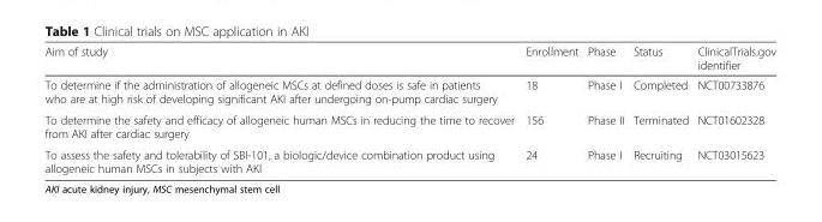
<table><thead><tr><td>Aim of study</td><td>Enrollment</td><td>Phase</td><td>Status</td><td>ClinicalTrials.gov identifier</td></tr></thead><tbody><tr><td>To determine if the administration of allogeneic MSCs at defined doses is safe in patients who are at high risk of developing significant AKI after undergoing on-pump cardiac surgery</td><td>18</td><td>Phase I</td><td>Completed</td><td>NCT00733876</td></tr><tr><td>To determine the safety and efficacy of allogeneic human MSCs in reducing the time to recover from AKI after cardiac surgery</td><td>156</td><td>Phase II</td><td>Terminated</td><td>NCT01602328</td></tr><tr><td>To assess the safety and tolerability of SBI-101, a biologic/device combination product using allogeneic human MSCs in subjects with AKI</td><td>24</td><td>Phase I</td><td>Recruiting</td><td>NCT03015623</td></tr></tbody></table>